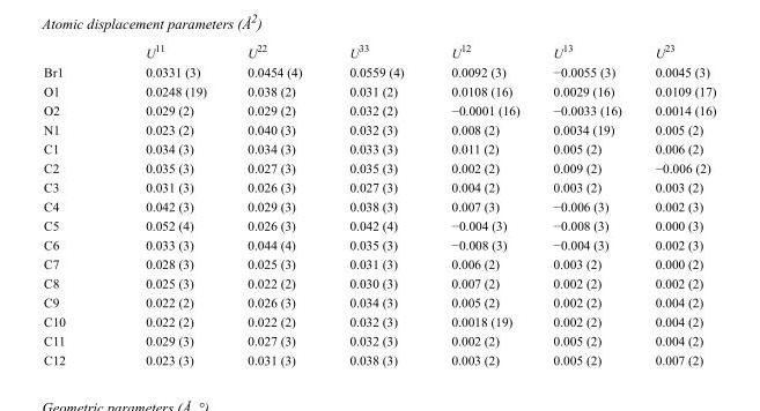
<table><thead><tr><td></td><td>U<sup>11</sup></td><td>U<sup>22</sup></td><td>U<sup>33</sup></td><td>U<sup>12</sup></td><td>U<sup>13</sup></td><td>U<sup>23</sup></td></tr></thead><tbody><tr><td>Br1</td><td>0.0331 (3)</td><td>0.0454 (4)</td><td>0.0559 (4)</td><td>0.0092 (3)</td><td>−0.0055 (3)</td><td>0.0045 (3)</td></tr><tr><td>O1</td><td>0.0248 (19)</td><td>0.038 (2)</td><td>0.031 (2)</td><td>0.0108 (16)</td><td>0.0029 (16)</td><td>0.0109 (17)</td></tr><tr><td>O2</td><td>0.029 (2)</td><td>0.029 (2)</td><td>0.032 (2)</td><td>−0.0001 (16)</td><td>−0.0033 (16)</td><td>0.0014 (16)</td></tr><tr><td>N1</td><td>0.023 (2)</td><td>0.040 (3)</td><td>0.032 (3)</td><td>0.008 (2)</td><td>0.0034 (19)</td><td>0.005 (2)</td></tr><tr><td>C1</td><td>0.034 (3)</td><td>0.034 (3)</td><td>0.033 (3)</td><td>0.011 (2)</td><td>0.005 (2)</td><td>0.006 (2)</td></tr><tr><td>C2</td><td>0.035 (3)</td><td>0.027 (3)</td><td>0.035 (3)</td><td>0.002 (2)</td><td>0.009 (2)</td><td>−0.006 (2)</td></tr><tr><td>C3</td><td>0.031 (3)</td><td>0.026 (3)</td><td>0.027 (3)</td><td>0.004 (2)</td><td>0.003 (2)</td><td>0.003 (2)</td></tr><tr><td>C4</td><td>0.042 (3)</td><td>0.029 (3)</td><td>0.038 (3)</td><td>0.007 (3)</td><td>−0.006 (3)</td><td>0.002 (3)</td></tr><tr><td>C5</td><td>0.052 (4)</td><td>0.026 (3)</td><td>0.042 (4)</td><td>−0.004 (3)</td><td>−0.008 (3)</td><td>0.000 (3)</td></tr><tr><td>C6</td><td>0.033 (3)</td><td>0.044 (4)</td><td>0.035 (3)</td><td>−0.008 (3)</td><td>−0.004 (3)</td><td>0.002 (3)</td></tr><tr><td>C7</td><td>0.028 (3)</td><td>0.025 (3)</td><td>0.031 (3)</td><td>0.006 (2)</td><td>0.003 (2)</td><td>0.000 (2)</td></tr><tr><td>C8</td><td>0.025 (3)</td><td>0.022 (2)</td><td>0.030 (3)</td><td>0.007 (2)</td><td>0.002 (2)</td><td>0.002 (2)</td></tr><tr><td>C9</td><td>0.022 (2)</td><td>0.026 (3)</td><td>0.034 (3)</td><td>0.005 (2)</td><td>0.002 (2)</td><td>0.004 (2)</td></tr><tr><td>C10</td><td>0.022 (2)</td><td>0.022 (2)</td><td>0.032 (3)</td><td>0.0018 (19)</td><td>0.002 (2)</td><td>0.004 (2)</td></tr><tr><td>C11</td><td>0.029 (3)</td><td>0.027 (3)</td><td>0.032 (3)</td><td>0.002 (2)</td><td>0.005 (2)</td><td>0.004 (2)</td></tr><tr><td>C12</td><td>0.023 (3)</td><td>0.031 (3)</td><td>0.038 (3)</td><td>0.003 (2)</td><td>0.005 (2)</td><td>0.007 (2)</td></tr></tbody></table>